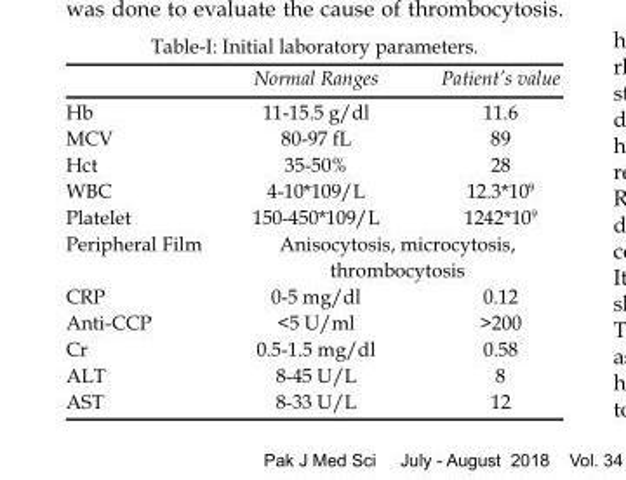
<table><thead><tr><td></td><td>Normal Ranges</td><td>Patient’s value</td></tr></thead><tbody><tr><td>Hb</td><td>11-15.5 g/dl</td><td>11.6</td></tr><tr><td>MCV</td><td>80-97 fL</td><td>89</td></tr><tr><td>Hct</td><td>35-50%</td><td>28</td></tr><tr><td>WBC</td><td>4-10*10<sup>9</sup>/L</td><td>12.3*10<sup>9</sup></td></tr><tr><td>Platelet</td><td>150-450*10<sup>9</sup>/L</td><td>1242*10<sup>9</sup></td></tr><tr><td>Peripheral Film</td><td colspan="2">Anisocytosis, microcytosis, thrombocytosis</td></tr><tr><td>CRP</td><td>0-5 mg/dl</td><td>0.12</td></tr><tr><td>Anti-CCP</td><td>&lt;5 U/ml</td><td>&gt;200</td></tr><tr><td>Cr</td><td>0.5-1.5 mg/dl</td><td>0.58</td></tr><tr><td>ALT</td><td>8-45 U/L</td><td>8</td></tr><tr><td>AST</td><td>8-33 U/L</td><td>12</td></tr></tbody></table>